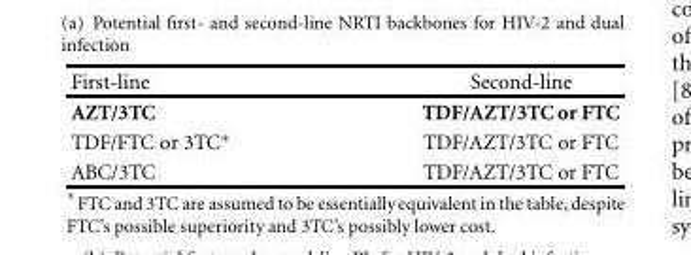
<table><thead><tr><td>First-line</td><td>Second-line</td></tr></thead><tbody><tr><td>AZT/3TC</td><td>TDF/AZT/3TC or FTC</td></tr><tr><td>TDF/FTC or 3TC∗</td><td>TDF/AZT/3TC or FTC</td></tr><tr><td>ABC/3TC</td><td>TDF/AZT/3TC or FTC</td></tr></tbody></table>